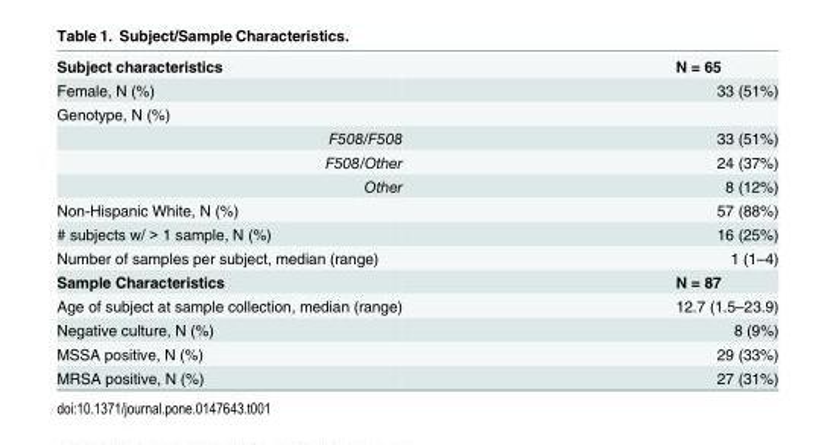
<table><tbody><tr><td>Subject characteristics</td><td>N = 65</td></tr><tr><td>Female, N (%)</td><td>33 (51%)</td></tr><tr><td colspan="2">Genotype, N (%)</td></tr><tr><td>F508/F508</td><td>33 (51%)</td></tr><tr><td>F508/Other</td><td>24 (37%)</td></tr><tr><td>Other</td><td>8 (12%)</td></tr><tr><td>Non-Hispanic White, N (%)</td><td>57 (88%)</td></tr><tr><td># subjects w/ &gt; 1 sample, N (%)</td><td>16 (25%)</td></tr><tr><td>Number of samples per subject, median (range)</td><td>1 (1–4)</td></tr><tr><td>Sample Characteristics</td><td>N = 87</td></tr><tr><td>Age of subject at sample collection, median (range)</td><td>12.7 (1.5–23.9)</td></tr><tr><td>Negative culture, N (%)</td><td>8 (9%)</td></tr><tr><td>MSSA positive, N (%)</td><td>29 (33%)</td></tr><tr><td>MRSA positive, N (%)</td><td>27 (31%)</td></tr></tbody></table>